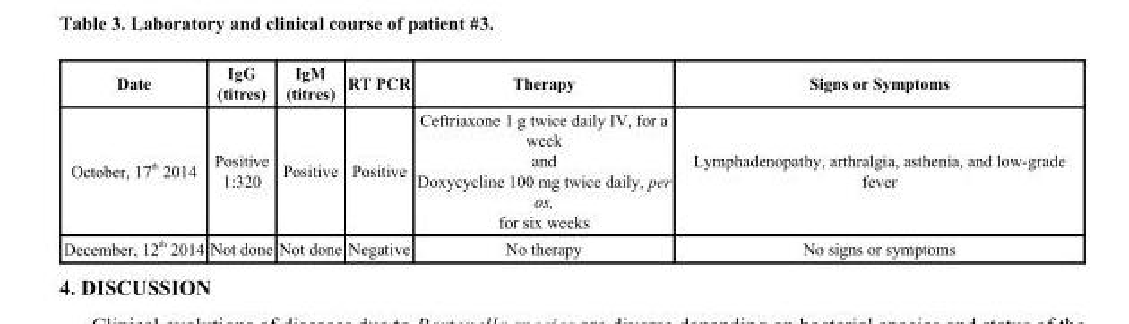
<table><thead><tr><td>Date</td><td>IgG (titres)</td><td>IgM (titres)</td><td>RT PCR</td><td>Therapy</td><td>Signs or Symptoms</td></tr></thead><tbody><tr><td>October, 17 <sup>th</sup> 2014</td><td>Positive 1:320</td><td>Positive</td><td>Positive</td><td>Ceftriaxone 1 g twice daily IV, for a week and Doxycycline 100 mg twice daily, per os, for six weeks</td><td>Lymphadenopathy, arthralgia, asthenia, and low-grade fever</td></tr><tr><td>December, 12 <sup>th</sup> 2014</td><td>Not done</td><td>Not done</td><td>Negative</td><td>No therapy</td><td>No signs or symptoms</td></tr></tbody></table>